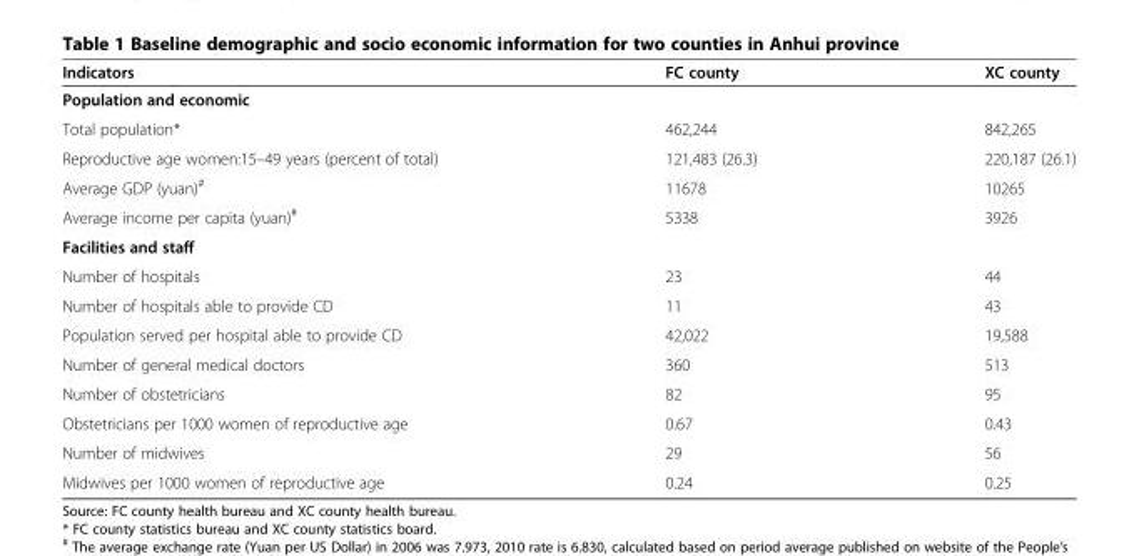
<table><thead><tr><td>Indicators</td><td>FC county</td><td>XC county</td></tr></thead><tbody><tr><td colspan="3">Population and economic</td></tr><tr><td>Total population*</td><td>462,244</td><td>842,265</td></tr><tr><td>Reproductive age women:15–49 years (percent of total)</td><td>121,483 (26.3)</td><td>220,187 (26.1)</td></tr><tr><td>Average GDP (yuan)<sup>#</sup></td><td>11678</td><td>10265</td></tr><tr><td>Average income per capita (yuan)<sup>#</sup></td><td>5338</td><td>3926</td></tr><tr><td colspan="3">Facilities and staff</td></tr><tr><td>Number of hospitals</td><td>23</td><td>44</td></tr><tr><td>Number of hospitals able to provide CD</td><td>11</td><td>43</td></tr><tr><td>Population served per hospital able to provide CD</td><td>42,022</td><td>19,588</td></tr><tr><td>Number of general medical doctors</td><td>360</td><td>513</td></tr><tr><td>Number of obstetricians</td><td>82</td><td>95</td></tr><tr><td>Obstetricians per 1000 women of reproductive age</td><td>0.67</td><td>0.43</td></tr><tr><td>Number of midwives</td><td>29</td><td>56</td></tr><tr><td>Midwives per 1000 women of reproductive age</td><td>0.24</td><td>0.25</td></tr></tbody></table>